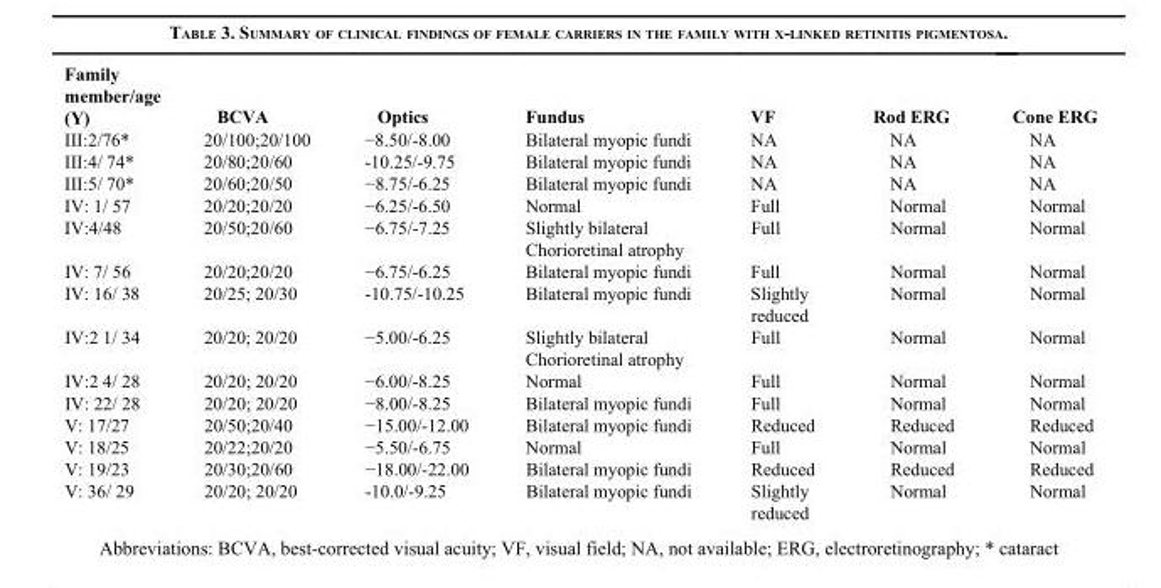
<table><thead><tr><td>Family member/age (Y)</td><td>BCVA</td><td>Optics</td><td>Fundus</td><td>VF</td><td>Rod ERG</td><td>Cone ERG</td></tr></thead><tbody><tr><td>III:2/76*</td><td>20/100;20/100</td><td>−8.50/-8.00</td><td>Bilateral myopic fundi</td><td>NA</td><td>NA</td><td>NA</td></tr><tr><td>III:4/ 74*</td><td>20/80;20/60</td><td>-10.25/-9.75</td><td>Bilateral myopic fundi</td><td>NA</td><td>NA</td><td>NA</td></tr><tr><td>III:5/ 70*</td><td>20/60;20/50</td><td>−8.75/-6.25</td><td>Bilateral myopic fundi</td><td>NA</td><td>NA</td><td>NA</td></tr><tr><td>IV: 1/ 57</td><td>20/20;20/20</td><td>−6.25/-6.50</td><td>Normal</td><td>Full</td><td>Normal</td><td>Normal</td></tr><tr><td>IV:4/48</td><td>20/50;20/60</td><td>−6.75/-7.25</td><td>Slightly bilateral Chorioretinal atrophy</td><td>Full</td><td>Normal</td><td>Normal</td></tr><tr><td>IV: 7/ 56</td><td>20/20;20/20</td><td>−6.75/-6.25</td><td>Bilateral myopic fundi</td><td>Full</td><td>Normal</td><td>Normal</td></tr><tr><td>IV: 16/ 38</td><td>20/25; 20/30</td><td>-10.75/-10.25</td><td>Bilateral myopic fundi</td><td>Slightly reduced</td><td>Normal</td><td>Normal</td></tr><tr><td>IV:2 1/ 34</td><td>20/20; 20/20</td><td>−5.00/-6.25</td><td>Slightly bilateral Chorioretinal atrophy</td><td>Full</td><td>Normal</td><td>Normal</td></tr><tr><td>IV:2 4/ 28</td><td>20/20; 20/20</td><td>−6.00/-8.25</td><td>Normal</td><td>Full</td><td>Normal</td><td>Normal</td></tr><tr><td>IV: 22/ 28</td><td>20/20; 20/20</td><td>−8.00/-8.25</td><td>Bilateral myopic fundi</td><td>Full</td><td>Normal</td><td>Normal</td></tr><tr><td>V: 17/27</td><td>20/50;20/40</td><td>−15.00/-12.00</td><td>Bilateral myopic fundi</td><td>Reduced</td><td>Reduced</td><td>Reduced</td></tr><tr><td>V: 18/25</td><td>20/22;20/20</td><td>−5.50/-6.75</td><td>Normal</td><td>Full</td><td>Normal</td><td>Normal</td></tr><tr><td>V: 19/23</td><td>20/30;20/60</td><td>−18.00/-22.00</td><td>Bilateral myopic fundi</td><td>Reduced</td><td>Reduced</td><td>Reduced</td></tr><tr><td>V: 36/ 29</td><td>20/20; 20/20</td><td>-10.0/-9.25</td><td>Bilateral myopic fundi</td><td>Slightly reduced</td><td>Normal</td><td>Normal</td></tr></tbody></table>